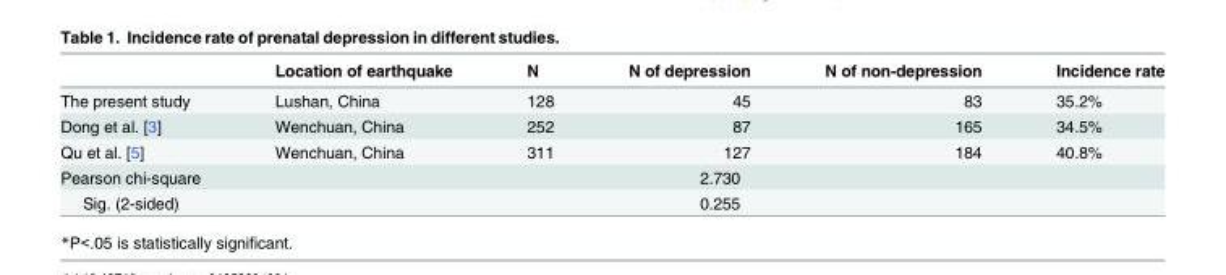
<table><thead><tr><td></td><td>Location of earthquake</td><td>N</td><td>N of depression</td><td>N of non-depression</td><td>Incidence rate</td></tr></thead><tbody><tr><td>The present study</td><td>Lushan, China</td><td>128</td><td>45</td><td>83</td><td>35.2%</td></tr><tr><td>Dong et al. [3]</td><td>Wenchuan, China</td><td>252</td><td>87</td><td>165</td><td>34.5%</td></tr><tr><td>Qu et al. [5]</td><td>Wenchuan, China</td><td>311</td><td>127</td><td>184</td><td>40.8%</td></tr><tr><td>Pearson chi-square</td><td colspan="5">2.730</td></tr><tr><td>Sig. (2-sided)</td><td colspan="5">0.255</td></tr></tbody></table>